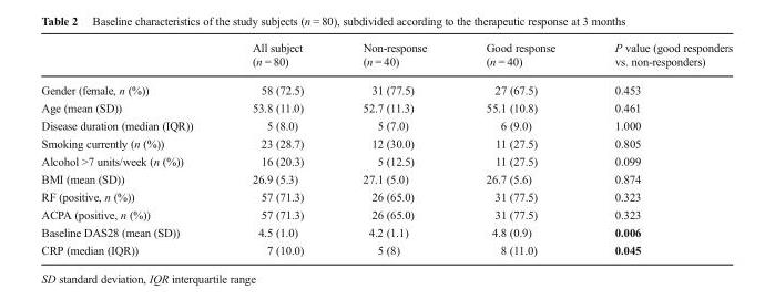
<table><thead><tr><td></td><td>All subject (n = 80)</td><td>Non-response (n = 40)</td><td>Good response (n = 40)</td><td>P value (good responders vs. non-responders)</td></tr></thead><tbody><tr><td>Gender (female, n (%))</td><td>58 (72.5)</td><td>31 (77.5)</td><td>27 (67.5)</td><td>0.453</td></tr><tr><td>Age (mean (SD))</td><td>53.8 (11.0)</td><td>52.7 (11.3)</td><td>55.1 (10.8)</td><td>0.461</td></tr><tr><td>Disease duration (median (IQR))</td><td>5 (8.0)</td><td>5 (7.0)</td><td>6 (9.0)</td><td>1.000</td></tr><tr><td>Smoking currently (n (%))</td><td>23 (28.7)</td><td>12 (30.0)</td><td>11 (27.5)</td><td>0.805</td></tr><tr><td>Alcohol &gt;7 units/week (n (%))</td><td>16 (20.3)</td><td>5 (12.5)</td><td>11 (27.5)</td><td>0.099</td></tr><tr><td>BMI (mean (SD))</td><td>26.9 (5.3)</td><td>27.1 (5.0)</td><td>26.7 (5.6)</td><td>0.874</td></tr><tr><td>RF (positive, n (%))</td><td>57 (71.3)</td><td>26 (65.0)</td><td>31 (77.5)</td><td>0.323</td></tr><tr><td>ACPA (positive, n (%))</td><td>57 (71.3)</td><td>26 (65.0)</td><td>31 (77.5)</td><td>0.323</td></tr><tr><td>Baseline DAS28 (mean (SD))</td><td>4.5 (1.0)</td><td>4.2 (1.1)</td><td>4.8 (0.9)</td><td>0.006</td></tr><tr><td>CRP (median (IQR))</td><td>7 (10.0)</td><td>5 (8)</td><td>8 (11.0)</td><td>0.045</td></tr></tbody></table>